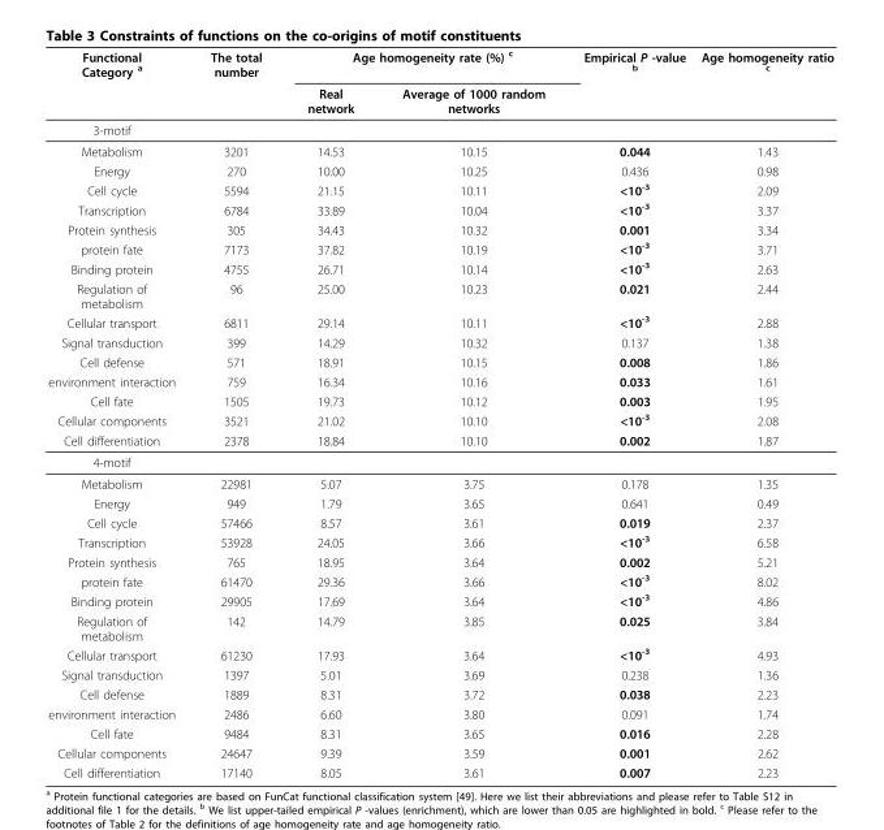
<table><thead><tr><td rowspan="2">Functional Category <sup>a</sup></td><td rowspan="2">The total number</td><td colspan="2">Age homogeneity rate (%) <sup>c</sup></td><td rowspan="2">Empirical P -value <sup>b</sup></td><td rowspan="2">Age homogeneity ratio <sup>c</sup></td></tr><tr><td>Real network</td><td>Average of 1000 random networks</td></tr></thead><tbody><tr><td colspan="6">3-motif</td></tr><tr><td>Metabolism</td><td>3201</td><td>14.53</td><td>10.15</td><td>0.044</td><td>1.43</td></tr><tr><td>Energy</td><td>270</td><td>10.00</td><td>10.25</td><td>0.436</td><td>0.98</td></tr><tr><td>Cell cycle</td><td>5594</td><td>21.15</td><td>10.11</td><td>&lt;10<sup>-3</sup></td><td>2.09</td></tr><tr><td>Transcription</td><td>6784</td><td>33.89</td><td>10.04</td><td>&lt;10<sup>-3</sup></td><td>3.37</td></tr><tr><td>Protein synthesis</td><td>305</td><td>34.43</td><td>10.32</td><td>0.001</td><td>3.34</td></tr><tr><td>protein fate</td><td>7173</td><td>37.82</td><td>10.19</td><td>&lt;10<sup>-3</sup></td><td>3.71</td></tr><tr><td>Binding protein</td><td>4755</td><td>26.71</td><td>10.14</td><td>&lt;10<sup>-3</sup></td><td>2.63</td></tr><tr><td>Regulation of metabolism</td><td>96</td><td>25.00</td><td>10.23</td><td>0.021</td><td>2.44</td></tr><tr><td>Cellular transport</td><td>6811</td><td>29.14</td><td>10.11</td><td>&lt;10<sup>-3</sup></td><td>2.88</td></tr><tr><td>Signal transduction</td><td>399</td><td>14.29</td><td>10.32</td><td>0.137</td><td>1.38</td></tr><tr><td>Cell defense</td><td>571</td><td>18.91</td><td>10.15</td><td>0.008</td><td>1.86</td></tr><tr><td>environment interaction</td><td>759</td><td>16.34</td><td>10.16</td><td>0.033</td><td>1.61</td></tr><tr><td>Cell fate</td><td>1505</td><td>19.73</td><td>10.12</td><td>0.003</td><td>1.95</td></tr><tr><td>Cellular components</td><td>3521</td><td>21.02</td><td>10.10</td><td>&lt;10<sup>-3</sup></td><td>2.08</td></tr><tr><td>Cell differentiation</td><td>2378</td><td>18.84</td><td>10.10</td><td>0.002</td><td>1.87</td></tr><tr><td colspan="6">4-motif</td></tr><tr><td>Metabolism</td><td>22981</td><td>5.07</td><td>3.75</td><td>0.178</td><td>1.35</td></tr><tr><td>Energy</td><td>949</td><td>1.79</td><td>3.65</td><td>0.641</td><td>0.49</td></tr><tr><td>Cell cycle</td><td>57466</td><td>8.57</td><td>3.61</td><td>0.019</td><td>2.37</td></tr><tr><td>Transcription</td><td>53928</td><td>24.05</td><td>3.66</td><td>&lt;10<sup>-3</sup></td><td>6.58</td></tr><tr><td>Protein synthesis</td><td>765</td><td>18.95</td><td>3.64</td><td>0.002</td><td>5.21</td></tr><tr><td>protein fate</td><td>61470</td><td>29.36</td><td>3.66</td><td>&lt;10<sup>-3</sup></td><td>8.02</td></tr><tr><td>Binding protein</td><td>29905</td><td>17.69</td><td>3.64</td><td>&lt;10<sup>-3</sup></td><td>4.86</td></tr><tr><td>Regulation of metabolism</td><td>142</td><td>14.79</td><td>3.85</td><td>0.025</td><td>3.84</td></tr><tr><td>Cellular transport</td><td>61230</td><td>17.93</td><td>3.64</td><td>&lt;10<sup>-3</sup></td><td>4.93</td></tr><tr><td>Signal transduction</td><td>1397</td><td>5.01</td><td>3.69</td><td>0.238</td><td>1.36</td></tr><tr><td>Cell defense</td><td>1889</td><td>8.31</td><td>3.72</td><td>0.038</td><td>2.23</td></tr><tr><td>environment interaction</td><td>2486</td><td>6.60</td><td>3.80</td><td>0.091</td><td>1.74</td></tr><tr><td>Cell fate</td><td>9484</td><td>8.31</td><td>3.65</td><td>0.016</td><td>2.28</td></tr><tr><td>Cellular components</td><td>24647</td><td>9.39</td><td>3.59</td><td>0.001</td><td>2.62</td></tr><tr><td>Cell differentiation</td><td>17140</td><td>8.05</td><td>3.61</td><td>0.007</td><td>2.23</td></tr></tbody></table>